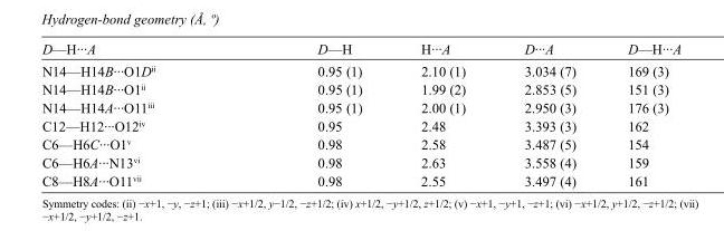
<table><tbody><tr><td>D—H···A</td><td>D—H</td><td>H···A</td><td>D···A</td><td>D—H···A</td></tr><tr><td>N14—H14B···O1D<sup>ii</sup></td><td>0.95 (1)</td><td>2.10 (1)</td><td>3.034 (7)</td><td>169 (3)</td></tr><tr><td>N14—H14B···O1<sup>ii</sup></td><td>0.95 (1)</td><td>1.99 (2)</td><td>2.853 (5)</td><td>151 (3)</td></tr><tr><td>N14—H14A···O11<sup>iii</sup></td><td>0.95 (1)</td><td>2.00 (1)</td><td>2.950 (3)</td><td>176 (3)</td></tr><tr><td>C12—H12···O12<sup>iv</sup></td><td>0.95</td><td>2.48</td><td>3.393 (3)</td><td>162</td></tr><tr><td>C6—H6C···O1<sup>v</sup></td><td>0.98</td><td>2.58</td><td>3.487 (5)</td><td>154</td></tr><tr><td>C6—H6A···N13<sup>vi</sup></td><td>0.98</td><td>2.63</td><td>3.558 (4)</td><td>159</td></tr><tr><td>C8—H8A···O11<sup>vii</sup></td><td>0.98</td><td>2.55</td><td>3.497 (4)</td><td>161</td></tr></tbody></table>